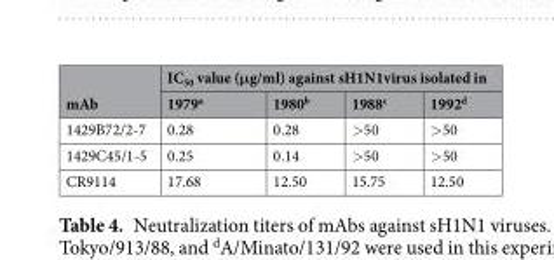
<table><thead><tr><td rowspan="2">mAb</td><td colspan="4">IC<sub>50</sub> value (μg/ml) against sH1N1virus isolated in</td></tr><tr><td>1979<sup>a</sup></td><td>1980<sup>b</sup></td><td>1988<sup>c</sup></td><td>1992<sup>d</sup></td></tr></thead><tbody><tr><td>1429B72/2-7</td><td>0.28</td><td>0.28</td><td>&gt;50</td><td>&gt;50</td></tr><tr><td>1429C45/1-5</td><td>0.25</td><td>0.14</td><td>&gt;50</td><td>&gt;50</td></tr><tr><td>CR9114</td><td>17.68</td><td>12.50</td><td>15.75</td><td>12.50</td></tr></tbody></table>